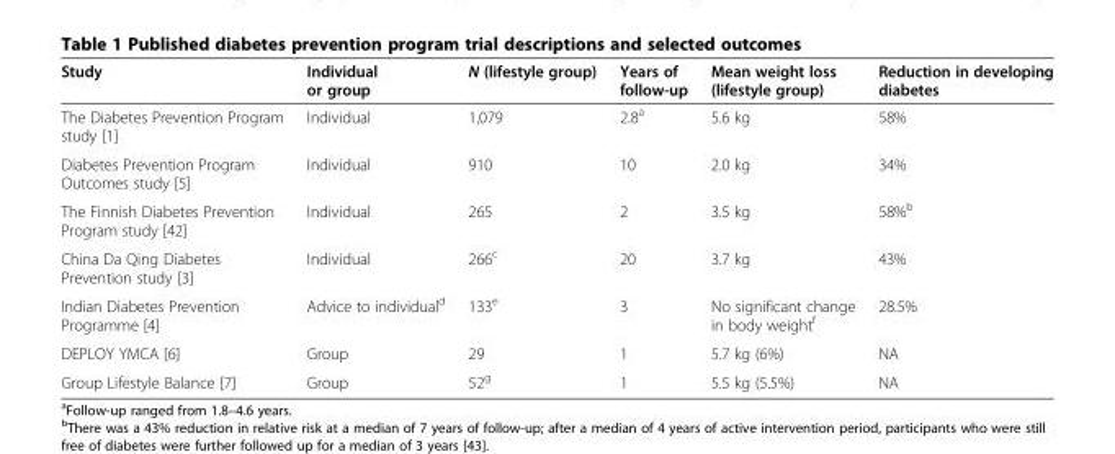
<table><thead><tr><td>Study</td><td>Individual or group</td><td>N (lifestyle group)</td><td>Years of follow-up</td><td>Mean weight loss (lifestyle group)</td><td>Reduction in developing diabetes</td></tr></thead><tbody><tr><td>The Diabetes Prevention Program study [1]</td><td>Individual</td><td>1,079</td><td>2.8<sup>a</sup></td><td>5.6 kg</td><td>58%</td></tr><tr><td>Diabetes Prevention Program Outcomes study [5]</td><td>Individual</td><td>910</td><td>10</td><td>2.0 kg</td><td>34%</td></tr><tr><td>The Finnish Diabetes Prevention Program study [42]</td><td>Individual</td><td>265</td><td>2</td><td>3.5 kg</td><td>58%<sup>b</sup></td></tr><tr><td>China Da Qing Diabetes Prevention study [3]</td><td>Individual</td><td>266<sup>c</sup></td><td>20</td><td>3.7 kg</td><td>43%</td></tr><tr><td>Indian Diabetes Prevention Programme [4]</td><td>Advice to individual<sup>d</sup></td><td>133<sup>e</sup></td><td>3</td><td>No significant change in body weight<sup>f</sup></td><td>28.5%</td></tr><tr><td>DEPLOY YMCA [6]</td><td>Group</td><td>29</td><td>1</td><td>5.7 kg (6%)</td><td>NA</td></tr><tr><td>Group Lifestyle Balance [7]</td><td>Group</td><td>52<sup>g</sup></td><td>1</td><td>5.5 kg (5.5%)</td><td>NA</td></tr></tbody></table>